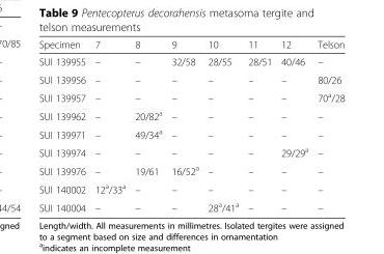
<table><thead><tr><td>Specimen</td><td>7</td><td>8</td><td>9</td><td>10</td><td>11</td><td>12</td><td>Telson</td></tr></thead><tbody><tr><td>SUI 139955</td><td>–</td><td>–</td><td>32/58</td><td>28/55</td><td>28/51</td><td>40/46</td><td>–</td></tr><tr><td>SUI 139956</td><td>–</td><td>–</td><td>–</td><td>–</td><td>–</td><td>–</td><td>80/26</td></tr><tr><td>SUI 139957</td><td>–</td><td>–</td><td>–</td><td>–</td><td>–</td><td>–</td><td>70<sup>a</sup>/28</td></tr><tr><td>SUI 139962</td><td>–</td><td>20/82<sup>a</sup></td><td>–</td><td>–</td><td>–</td><td>–</td><td>–</td></tr><tr><td>SUI 139971</td><td>–</td><td>49/34<sup>a</sup></td><td>–</td><td>–</td><td>–</td><td>–</td><td>–</td></tr><tr><td>SUI 139974</td><td>–</td><td>–</td><td>–</td><td>–</td><td>–</td><td>29/29<sup>a</sup></td><td>–</td></tr><tr><td>SUI 139976</td><td>–</td><td>19/61</td><td>16/52<sup>a</sup></td><td>–</td><td>–</td><td>–</td><td>–</td></tr><tr><td>SUI 140002</td><td>12<sup>a</sup>/33<sup>a</sup></td><td>–</td><td>–</td><td>–</td><td>–</td><td>–</td><td>–</td></tr><tr><td>SUI 140004</td><td>–</td><td>–</td><td>–</td><td>28<sup>a</sup>/41<sup>a</sup></td><td>–</td><td>–</td><td>–</td></tr></tbody></table>